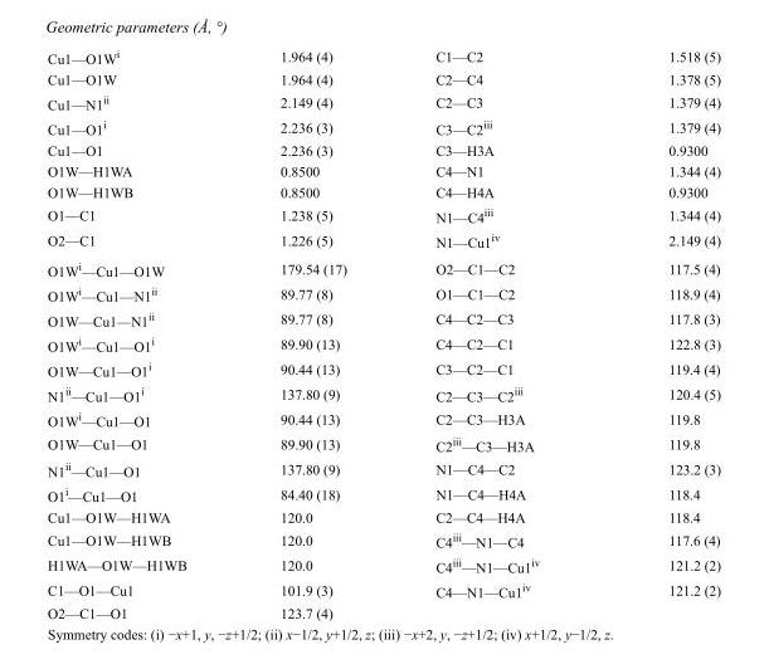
<table><tbody><tr><td>Cu1—O1W<sup>i</sup></td><td>1.964 (4)</td><td>C1—C2</td><td>1.518 (5)</td></tr><tr><td>Cu1—O1W</td><td>1.964 (4)</td><td>C2—C4</td><td>1.378 (5)</td></tr><tr><td>Cu1—N1<sup>ii</sup></td><td>2.149 (4)</td><td>C2—C3</td><td>1.379 (4)</td></tr><tr><td>Cu1—O1<sup>i</sup></td><td>2.236 (3)</td><td>C3—C2<sup>iii</sup></td><td>1.379 (4)</td></tr><tr><td>Cu1—O1</td><td>2.236 (3)</td><td>C3—H3A</td><td>0.9300</td></tr><tr><td>O1W—H1WA</td><td>0.8500</td><td>C4—N1</td><td>1.344 (4)</td></tr><tr><td>O1W—H1WB</td><td>0.8500</td><td>C4—H4A</td><td>0.9300</td></tr><tr><td>O1—C1</td><td>1.238 (5)</td><td>N1—C4<sup>iii</sup></td><td>1.344 (4)</td></tr><tr><td>O2—C1</td><td>1.226 (5)</td><td>N1—Cu1<sup>iv</sup></td><td>2.149 (4)</td></tr><tr><td>O1W<sup>i</sup>—Cu1—O1W</td><td>179.54 (17)</td><td>O2—C1—C2</td><td>117.5 (4)</td></tr><tr><td>O1W<sup>i</sup>—Cu1—N1<sup>ii</sup></td><td>89.77 (8)</td><td>O1—C1—C2</td><td>118.9 (4)</td></tr><tr><td>O1W—Cu1—N1<sup>ii</sup></td><td>89.77 (8)</td><td>C4—C2—C3</td><td>117.8 (3)</td></tr><tr><td>O1W<sup>i</sup>—Cu1—O1<sup>i</sup></td><td>89.90 (13)</td><td>C4—C2—C1</td><td>122.8 (3)</td></tr><tr><td>O1W—Cu1—O1<sup>i</sup></td><td>90.44 (13)</td><td>C3—C2—C1</td><td>119.4 (4)</td></tr><tr><td>N1<sup>ii</sup>—Cu1—O1<sup>i</sup></td><td>137.80 (9)</td><td>C2—C3—C2<sup>iii</sup></td><td>120.4 (5)</td></tr><tr><td>O1W<sup>i</sup>—Cu1—O1</td><td>90.44 (13)</td><td>C2—C3—H3A</td><td>119.8</td></tr><tr><td>O1W—Cu1—O1</td><td>89.90 (13)</td><td>C2<sup>iii</sup>—C3—H3A</td><td>119.8</td></tr><tr><td>N1<sup>ii</sup>—Cu1—O1</td><td>137.80 (9)</td><td>N1—C4—C2</td><td>123.2 (3)</td></tr><tr><td>O1<sup>i</sup>—Cu1—O1</td><td>84.40 (18)</td><td>N1—C4—H4A</td><td>118.4</td></tr><tr><td>Cu1—O1W—H1WA</td><td>120.0</td><td>C2—C4—H4A</td><td>118.4</td></tr><tr><td>Cu1—O1W—H1WB</td><td>120.0</td><td>C4<sup>iii</sup>—N1—C4</td><td>117.6 (4)</td></tr><tr><td>H1WA—O1W—H1WB</td><td>120.0</td><td>C4<sup>iii</sup>—N1—Cu1<sup>iv</sup></td><td>121.2 (2)</td></tr><tr><td>C1—O1—Cu1</td><td>101.9 (3)</td><td>C4—N1—Cu1<sup>iv</sup></td><td>121.2 (2)</td></tr><tr><td>O2—C1—O1</td><td>123.7 (4)</td><td></td><td></td></tr></tbody></table>